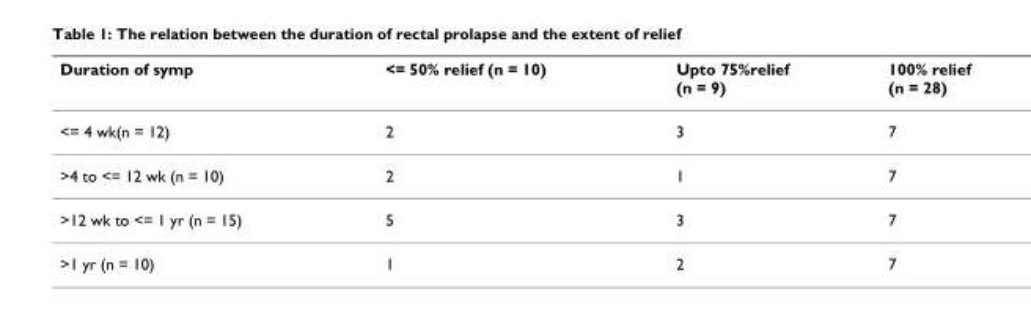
<table><thead><tr><td>Duration of symp</td><td>&lt;= 50% relief (n = 10)</td><td>Upto 75%relief (n = 9)</td><td>100% relief (n = 28)</td></tr></thead><tbody><tr><td>&lt;= 4 wk(n = 12)</td><td>2</td><td>3</td><td>7</td></tr><tr><td>&gt;4 to &lt;= 12 wk (n = 10)</td><td>2</td><td>1</td><td>7</td></tr><tr><td>&gt;12 wk to &lt;= 1 yr (n = 15)</td><td>5</td><td>3</td><td>7</td></tr><tr><td>&gt;1 yr (n = 10)</td><td>1</td><td>2</td><td>7</td></tr></tbody></table>